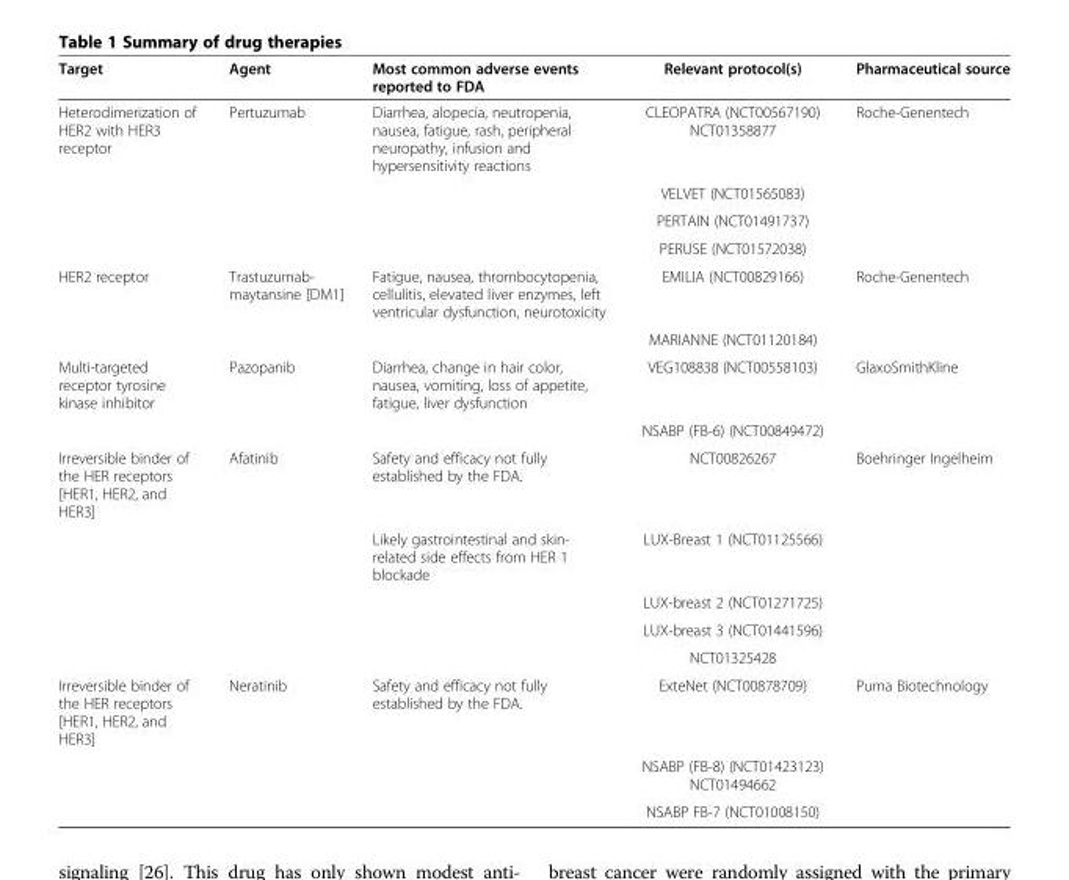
<table><thead><tr><td>Target</td><td>Agent</td><td>Most common adverse events reported to FDA</td><td>Relevant protocol(s)</td><td>Pharmaceutical source</td></tr></thead><tbody><tr><td rowspan="4">Heterodimerization of HER2 with HER3 receptor</td><td>Pertuzumab</td><td>Diarrhea, alopecia, neutropenia, nausea, fatigue, rash, peripheral neuropathy, infusion and hypersensitivity reactions</td><td>CLEOPATRA (NCT00567190) NCT01358877</td><td rowspan="4">Roche-Genentech</td></tr><tr><td></td><td></td><td>VELVET (NCT01565083)</td></tr><tr><td></td><td></td><td>PERTAIN (NCT01491737)</td></tr><tr><td></td><td></td><td>PERUSE (NCT01572038)</td></tr><tr><td rowspan="2">HER2 receptor</td><td>Trastuzumab- maytansine [DM1]</td><td>Fatigue, nausea, thrombocytopenia, cellulitis, elevated liver enzymes, left ventricular dysfunction, neurotoxicity</td><td>EMILIA (NCT00829166)</td><td rowspan="2">Roche-Genentech</td></tr><tr><td></td><td></td><td>MARIANNE (NCT01120184)</td></tr><tr><td rowspan="2">Multi-targeted receptor tyrosine kinase inhibitor</td><td>Pazopanib</td><td>Diarrhea, change in hair color, nausea, vomiting, loss of appetite, fatigue, liver dysfunction</td><td>VEG108838 (NCT00558103)</td><td rowspan="2">GlaxoSmithKline</td></tr><tr><td></td><td></td><td>NSABP (FB-6) (NCT00849472)</td></tr><tr><td rowspan="5">Irreversible binder of the HER receptors [HER1, HER2, and HER3]</td><td>Afatinib</td><td>Safety and efficacy not fully established by the FDA.</td><td>NCT00826267</td><td rowspan="5">Boehringer Ingelheim</td></tr><tr><td></td><td>Likely gastrointestinal and skin- related side effects from HER 1 blockade</td><td>LUX-Breast 1 (NCT01125566)</td></tr><tr><td></td><td></td><td>LUX-breast 2 (NCT01271725)</td></tr><tr><td></td><td></td><td>LUX-breast 3 (NCT01441596)</td></tr><tr><td></td><td></td><td>NCT01325428</td></tr><tr><td rowspan="3">Irreversible binder of the HER receptors [HER1, HER2, and HER3]</td><td>Neratinib</td><td>Safety and efficacy not fully established by the FDA.</td><td>ExteNet (NCT00878709)</td><td rowspan="3">Puma Biotechnology</td></tr><tr><td></td><td></td><td>NSABP (FB-8) (NCT01423123) NCT01494662</td></tr><tr><td></td><td></td><td>NSABP FB-7 (NCT01008150)</td></tr></tbody></table>